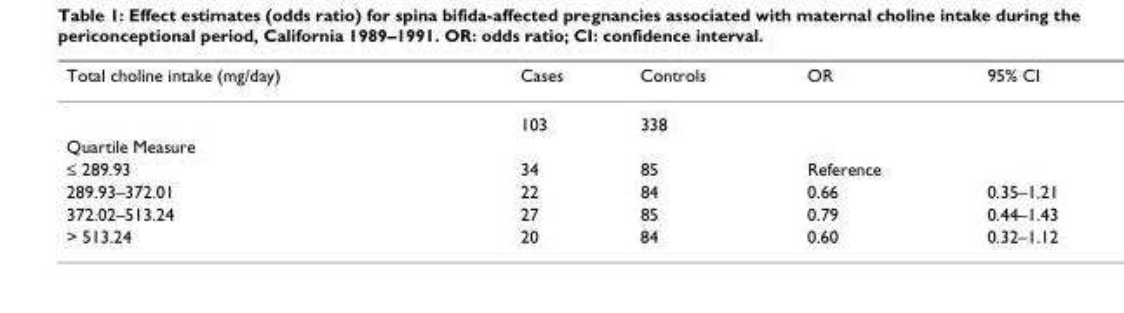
<table><thead><tr><td>Total choline intake (mg/day)</td><td>Cases</td><td>Controls</td><td>OR</td><td>95% CI</td></tr></thead><tbody><tr><td></td><td>103</td><td>338</td><td></td><td></td></tr><tr><td colspan="5">Quartile Measure</td></tr><tr><td>≤ 289.93</td><td>34</td><td>85</td><td>Reference</td><td></td></tr><tr><td>289.93–372.01</td><td>22</td><td>84</td><td>0.66</td><td>0.35–1.21</td></tr><tr><td>372.02–513.24</td><td>27</td><td>85</td><td>0.79</td><td>0.44–1.43</td></tr><tr><td>&gt; 513.24</td><td>20</td><td>84</td><td>0.60</td><td>0.32–1.12</td></tr></tbody></table>